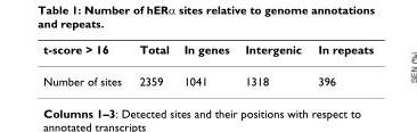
<table><thead><tr><td>t-score &gt; 16</td><td>Total</td><td>In genes</td><td>Intergenic</td><td>In repeats</td></tr></thead><tbody><tr><td>Number of sites</td><td>2359</td><td>1041</td><td>1318</td><td>396</td></tr></tbody></table>